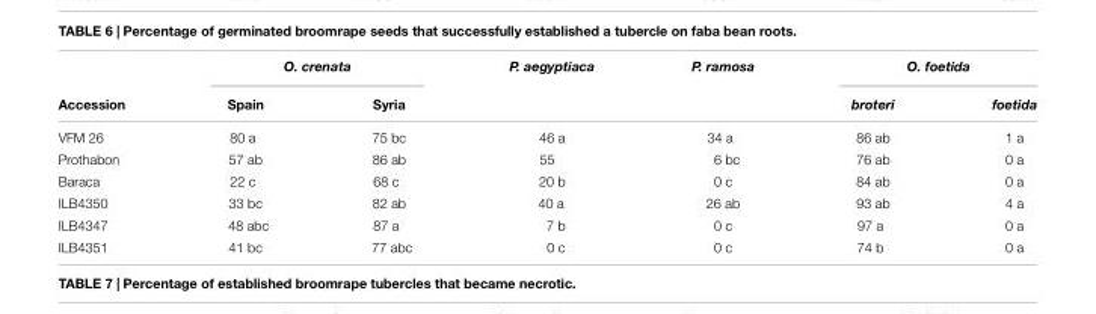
<table><thead><tr><td rowspan="2">Accession</td><td colspan="2">O. crenata</td><td rowspan="2">P. aegyptiaca</td><td rowspan="2">P. ramosa</td><td colspan="2">O. foetida</td></tr><tr><td>Spain</td><td>Syria</td><td>broteri</td><td>foetida</td></tr></thead><tbody><tr><td>VFM 26</td><td>80 a</td><td>75 bc</td><td>46 a</td><td>34 a</td><td>86 ab</td><td>1 a</td></tr><tr><td>Prothabon</td><td>57 ab</td><td>86 ab</td><td>55</td><td>6 bc</td><td>76 ab</td><td>0 a</td></tr><tr><td>Baraca</td><td>22 c</td><td>68 c</td><td>20 b</td><td>0 c</td><td>84 ab</td><td>0 a</td></tr><tr><td>ILB4350</td><td>33 bc</td><td>82 ab</td><td>40 a</td><td>26 ab</td><td>93 ab</td><td>4 a</td></tr><tr><td>ILB4347</td><td>48 abc</td><td>87 a</td><td>7 b</td><td>0 c</td><td>97 a</td><td>0 a</td></tr><tr><td>ILB4351</td><td>41 bc</td><td>77 abc</td><td>0 c</td><td>0 c</td><td>74 b</td><td>0 a</td></tr></tbody></table>